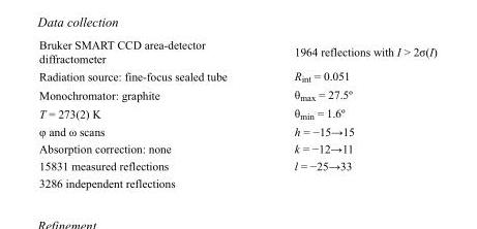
<table><tbody><tr><td>Bruker SMART CCD area-detector diffractometer</td><td>1964 reflections with I &gt; 2σ(I)</td></tr><tr><td>Radiation source: fine-focus sealed tube</td><td>R<sub>int</sub> = 0.051</td></tr><tr><td>Monochromator: graphite</td><td>θ<sub>max</sub> = 27.5º</td></tr><tr><td>T = 273(2) K</td><td>θ<sub>min</sub> = 1.6º</td></tr><tr><td>φ and ω scans</td><td>h = −15→15</td></tr><tr><td>Absorption correction: none</td><td>k = −12→11</td></tr><tr><td>15831 measured reflections</td><td>l = −25→33</td></tr><tr><td>3286 independent reflections</td><td></td></tr></tbody></table>